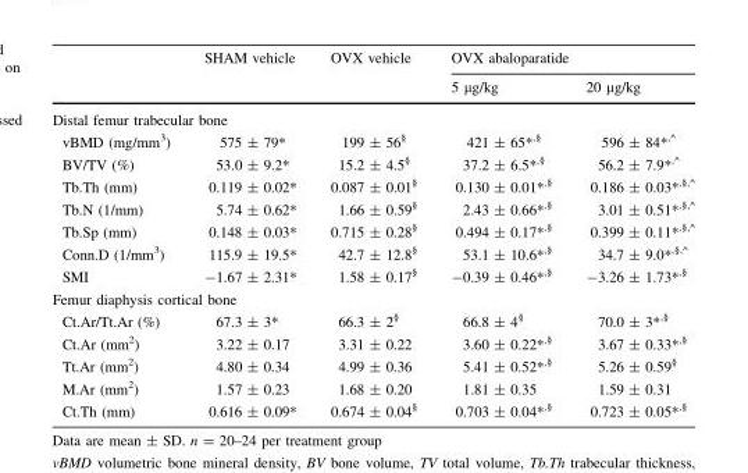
<table><thead><tr><td rowspan="2"></td><td rowspan="2">SHAM vehicle</td><td rowspan="2">OVX vehicle</td><td colspan="2">OVX abaloparatide</td></tr><tr><td>5 µg/kg</td><td>20 µg/kg</td></tr></thead><tbody><tr><td colspan="5">Distal femur trabecular bone</td></tr><tr><td>vBMD (mg/mm<sup>3</sup>)</td><td>575 ± 79*</td><td>199 ± 56<sup>§</sup></td><td>421 ± 65*<sup>,§</sup></td><td>596 ± 84*,^</td></tr><tr><td>BV/TV (%)</td><td>53.0 ± 9.2*</td><td>15.2 ± 4.5<sup>§</sup></td><td>37.2 ± 6.5*<sup>,§</sup></td><td>56.2 ± 7.9*,^</td></tr><tr><td>Tb.Th (mm)</td><td>0.119 ± 0.02*</td><td>0.087 ± 0.01<sup>§</sup></td><td>0.130 ± 0.01*<sup>,§</sup></td><td>0.186 ± 0.03*,§,^</td></tr><tr><td>Tb.N (1/mm)</td><td>5.74 ± 0.62*</td><td>1.66 ± 0.59<sup>§</sup></td><td>2.43 ± 0.66*<sup>,§</sup></td><td>3.01 ± 0.51*,§,^</td></tr><tr><td>Tb.Sp (mm)</td><td>0.148 ± 0.03*</td><td>0.715 ± 0.28<sup>§</sup></td><td>0.494 ± 0.17*<sup>,§</sup></td><td>0.399 ± 0.11*,§,^</td></tr><tr><td>Conn.D (1/mm<sup>3</sup>)</td><td>115.9 ± 19.5*</td><td>42.7 ± 12.8<sup>§</sup></td><td>53.1 ± 10.6*<sup>,§</sup></td><td>34.7 ± 9.0*,§,^</td></tr><tr><td>SMI</td><td>-1.67 ± 2.31*</td><td>1.58 ± 0.17<sup>§</sup></td><td>-0.39 ± 0.46*<sup>,§</sup></td><td>-3.26 ± 1.73*<sup>,§</sup></td></tr><tr><td colspan="5">Femur diaphysis cortical bone</td></tr><tr><td>Ct.Ar/Tt.Ar (%)</td><td>67.3 ± 3*</td><td>66.3 ± 2<sup>§</sup></td><td>66.8 ± 4<sup>§</sup></td><td>70.0 ± 3*<sup>,§</sup></td></tr><tr><td>Ct.Ar (mm<sup>2</sup>)</td><td>3.22 ± 0.17</td><td>3.31 ± 0.22</td><td>3.60 ± 0.22*<sup>,§</sup></td><td>3.67 ± 0.33*<sup>,§</sup></td></tr><tr><td>Tt.Ar (mm<sup>2</sup>)</td><td>4.80 ± 0.34</td><td>4.99 ± 0.36</td><td>5.41 ± 0.52*<sup>,§</sup></td><td>5.26 ± 0.59<sup>§</sup></td></tr><tr><td>M.Ar (mm<sup>2</sup>)</td><td>1.57 ± 0.23</td><td>1.68 ± 0.20</td><td>1.81 ± 0.35</td><td>1.59 ± 0.31</td></tr><tr><td>Ct.Th (mm)</td><td>0.616 ± 0.09*</td><td>0.674 ± 0.04<sup>§</sup></td><td>0.703 ± 0.04*<sup>,§</sup></td><td>0.723 ± 0.05*<sup>,§</sup></td></tr></tbody></table>